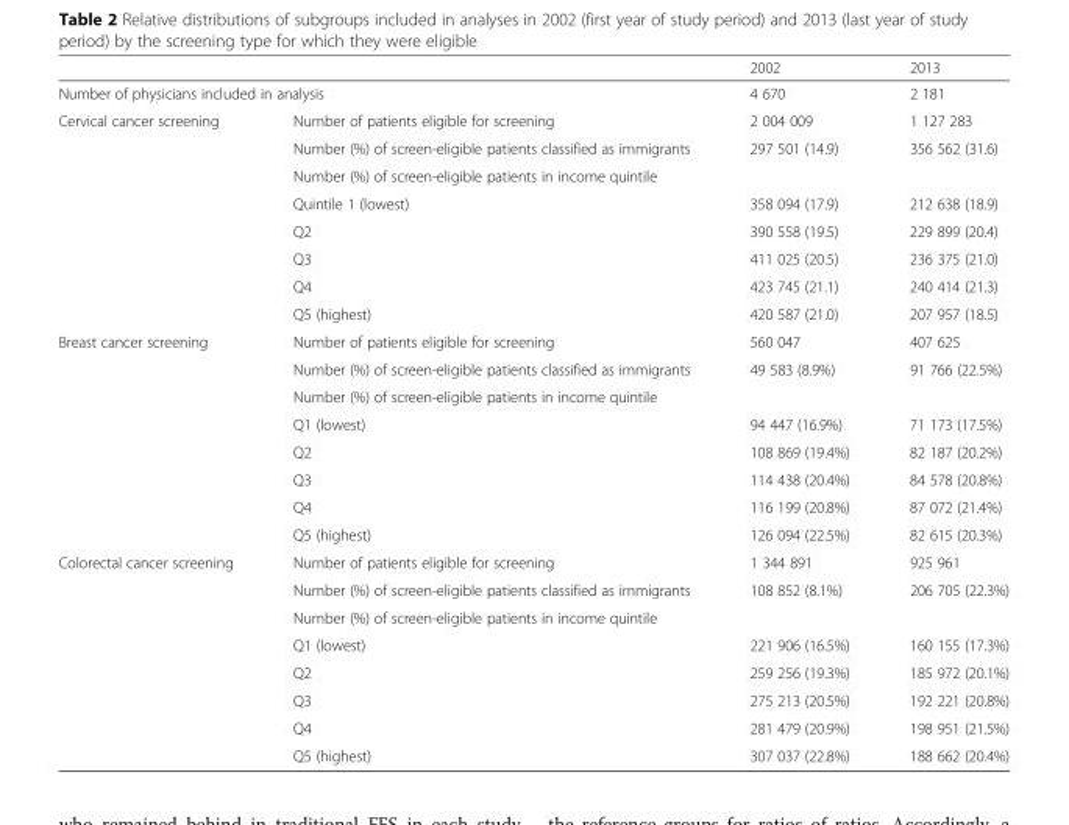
<table><thead><tr><td></td><td></td><td>2002</td><td>2013</td></tr></thead><tbody><tr><td colspan="2">Number of physicians included in analysis</td><td>4 670</td><td>2 181</td></tr><tr><td rowspan="8">Cervical cancer screening</td><td>Number of patients eligible for screening</td><td>2 004 009</td><td>1 127 283</td></tr><tr><td>Number (%) of screen-eligible patients classified as immigrants</td><td>297 501 (14.9)</td><td>356 562 (31.6)</td></tr><tr><td>Number (%) of screen-eligible patients in income quintile</td><td></td><td></td></tr><tr><td>Quintile 1 (lowest)</td><td>358 094 (17.9)</td><td>212 638 (18.9)</td></tr><tr><td>Q2</td><td>390 558 (19.5)</td><td>229 899 (20.4)</td></tr><tr><td>Q3</td><td>411 025 (20.5)</td><td>236 375 (21.0)</td></tr><tr><td>Q4</td><td>423 745 (21.1)</td><td>240 414 (21.3)</td></tr><tr><td>Q5 (highest)</td><td>420 587 (21.0)</td><td>207 957 (18.5)</td></tr><tr><td rowspan="8">Breast cancer screening</td><td>Number of patients eligible for screening</td><td>560 047</td><td>407 625</td></tr><tr><td>Number (%) of screen-eligible patients classified as immigrants</td><td>49 583 (8.9%)</td><td>91 766 (22.5%)</td></tr><tr><td>Number (%) of screen-eligible patients in income quintile</td><td></td><td></td></tr><tr><td>Q1 (lowest)</td><td>94 447 (16.9%)</td><td>71 173 (17.5%)</td></tr><tr><td>Q2</td><td>108 869 (19.4%)</td><td>82 187 (20.2%)</td></tr><tr><td>Q3</td><td>114 438 (20.4%)</td><td>84 578 (20.8%)</td></tr><tr><td>Q4</td><td>116 199 (20.8%)</td><td>87 072 (21.4%)</td></tr><tr><td>Q5 (highest)</td><td>126 094 (22.5%)</td><td>82 615 (20.3%)</td></tr><tr><td rowspan="8">Colorectal cancer screening</td><td>Number of patients eligible for screening</td><td>1 344 891</td><td>925 961</td></tr><tr><td>Number (%) of screen-eligible patients classified as immigrants</td><td>108 852 (8.1%)</td><td>206 705 (22.3%)</td></tr><tr><td>Number (%) of screen-eligible patients in income quintile</td><td></td><td></td></tr><tr><td>Q1 (lowest)</td><td>221 906 (16.5%)</td><td>160 155 (17.3%)</td></tr><tr><td>Q2</td><td>259 256 (19.3%)</td><td>185 972 (20.1%)</td></tr><tr><td>Q3</td><td>275 213 (20.5%)</td><td>192 221 (20.8%)</td></tr><tr><td>Q4</td><td>281 479 (20.9%)</td><td>198 951 (21.5%)</td></tr><tr><td>Q5 (highest)</td><td>307 037 (22.8%)</td><td>188 662 (20.4%)</td></tr></tbody></table>